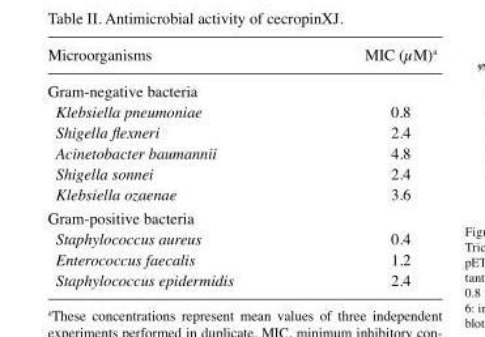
<table><thead><tr><td>Microorganisms</td><td>MIC (µM)<sup>a</sup></td></tr></thead><tbody><tr><td colspan="2">Gram-negative bacteria</td></tr><tr><td>Klebsiella pneumoniae</td><td>0.8</td></tr><tr><td>Shigella flexneri</td><td>2.4</td></tr><tr><td>Acinetobacter baumannii</td><td>4.8</td></tr><tr><td>Shigella sonnei</td><td>2.4</td></tr><tr><td>Klebsiella ozaenae</td><td>3.6</td></tr><tr><td colspan="2">Gram-positive bacteria</td></tr><tr><td>Staphylococcus aureus</td><td>0.4</td></tr><tr><td>Enterococcus faecalis</td><td>1.2</td></tr><tr><td>Staphylococcus epidermidis</td><td>2.4</td></tr></tbody></table>